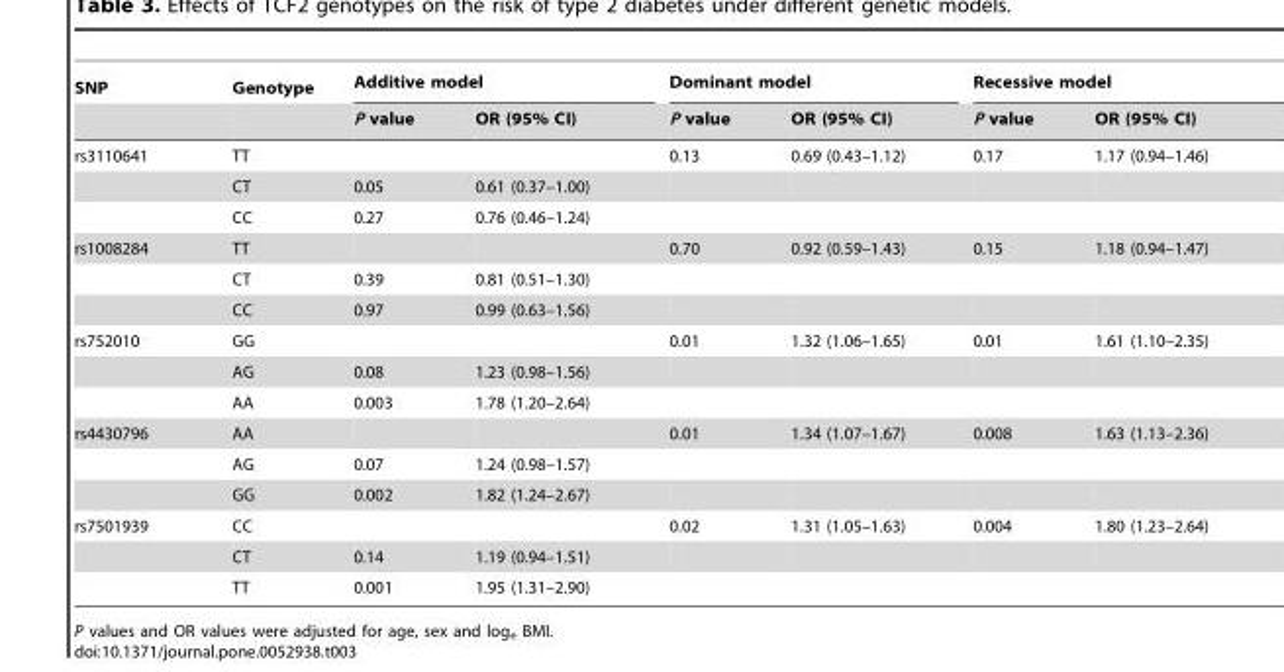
<table><thead><tr><td rowspan="2">SNP</td><td rowspan="2">Genotype</td><td colspan="2">Additive model</td><td colspan="2">Dominant model</td><td colspan="2">Recessive model</td></tr><tr><td>P value</td><td>OR (95% CI)</td><td>P value</td><td>OR (95% CI)</td><td>P value</td><td>OR (95% CI)</td></tr></thead><tbody><tr><td rowspan="3">rs3110641</td><td>TT</td><td></td><td></td><td>0.13</td><td>0.69 (0.43–1.12)</td><td>0.17</td><td>1.17 (0.94–1.46)</td></tr><tr><td>CT</td><td>0.05</td><td>0.61 (0.37–1.00)</td><td></td><td></td><td></td><td></td></tr><tr><td>CC</td><td>0.27</td><td>0.76 (0.46–1.24)</td><td></td><td></td><td></td><td></td></tr><tr><td rowspan="3">rs1008284</td><td>TT</td><td></td><td></td><td>0.70</td><td>0.92 (0.59–1.43)</td><td>0.15</td><td>1.18 (0.94–1.47)</td></tr><tr><td>CT</td><td>0.39</td><td>0.81 (0.51–1.30)</td><td></td><td></td><td></td><td></td></tr><tr><td>CC</td><td>0.97</td><td>0.99 (0.63–1.56)</td><td></td><td></td><td></td><td></td></tr><tr><td rowspan="3">rs752010</td><td>GG</td><td></td><td></td><td>0.01</td><td>1.32 (1.06–1.65)</td><td>0.01</td><td>1.61 (1.10–2.35)</td></tr><tr><td>AG</td><td>0.08</td><td>1.23 (0.98–1.56)</td><td></td><td></td><td></td><td></td></tr><tr><td>AA</td><td>0.003</td><td>1.78 (1.20–2.64)</td><td></td><td></td><td></td><td></td></tr><tr><td rowspan="3">rs4430796</td><td>AA</td><td></td><td></td><td>0.01</td><td>1.34 (1.07–1.67)</td><td>0.008</td><td>1.63 (1.13–2.36)</td></tr><tr><td>AG</td><td>0.07</td><td>1.24 (0.98–1.57)</td><td></td><td></td><td></td><td></td></tr><tr><td>GG</td><td>0.002</td><td>1.82 (1.24–2.67)</td><td></td><td></td><td></td><td></td></tr><tr><td rowspan="3">rs7501939</td><td>CC</td><td></td><td></td><td>0.02</td><td>1.31 (1.05–1.63)</td><td>0.004</td><td>1.80 (1.23–2.64)</td></tr><tr><td>CT</td><td>0.14</td><td>1.19 (0.94–1.51)</td><td></td><td></td><td></td><td></td></tr><tr><td>TT</td><td>0.001</td><td>1.95 (1.31–2.90)</td><td></td><td></td><td></td><td></td></tr></tbody></table>